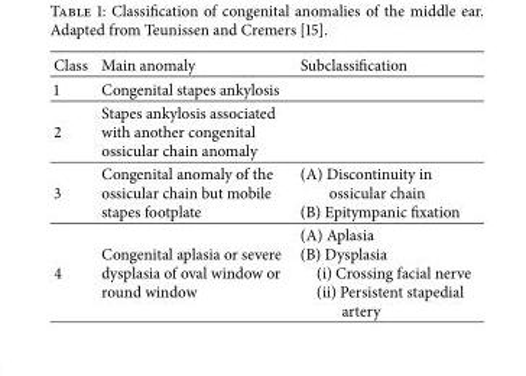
<table><thead><tr><td>Class</td><td>Main anomaly</td><td>Subclassification</td></tr></thead><tbody><tr><td>1</td><td>Congenital stapes ankylosis</td><td></td></tr><tr><td>2</td><td>Stapes ankylosis associated with another congenital ossicular chain anomaly</td><td></td></tr><tr><td>3</td><td>Congenital anomaly of the ossicular chain but mobile stapes footplate</td><td>(A) Discontinuity in ossicular chain (B) Epitympanic fixation</td></tr><tr><td>4</td><td>Congenital aplasia or severe dysplasia of oval window or round window</td><td>(A) Aplasia (B) Dysplasia (i) Crossing facial nerve (ii) Persistent stapedial artery</td></tr></tbody></table>